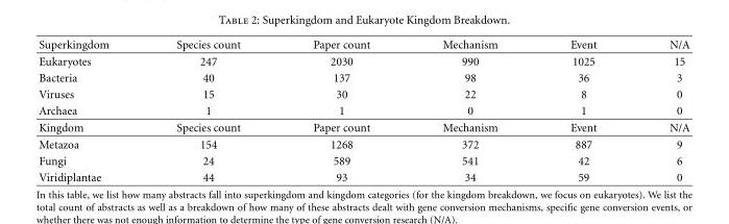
<table><thead><tr><td>Superkingdom</td><td>Species count</td><td>Paper count</td><td>Mechanism</td><td>Event</td><td>N/A</td></tr></thead><tbody><tr><td>Eukaryotes</td><td>247</td><td>2030</td><td>990</td><td>1025</td><td>15</td></tr><tr><td>Bacteria</td><td>40</td><td>137</td><td>98</td><td>36</td><td>3</td></tr><tr><td>Viruses</td><td>15</td><td>30</td><td>22</td><td>8</td><td>0</td></tr><tr><td>Archaea</td><td>1</td><td>1</td><td>0</td><td>1</td><td>0</td></tr><tr><td>Kingdom</td><td>Species count</td><td>Paper count</td><td>Mechanism</td><td>Event</td><td>N/A</td></tr><tr><td>Metazoa</td><td>154</td><td>1268</td><td>372</td><td>887</td><td>9</td></tr><tr><td>Fungi</td><td>24</td><td>589</td><td>541</td><td>42</td><td>6</td></tr><tr><td>Viridiplantae</td><td>44</td><td>93</td><td>34</td><td>59</td><td>0</td></tr></tbody></table>